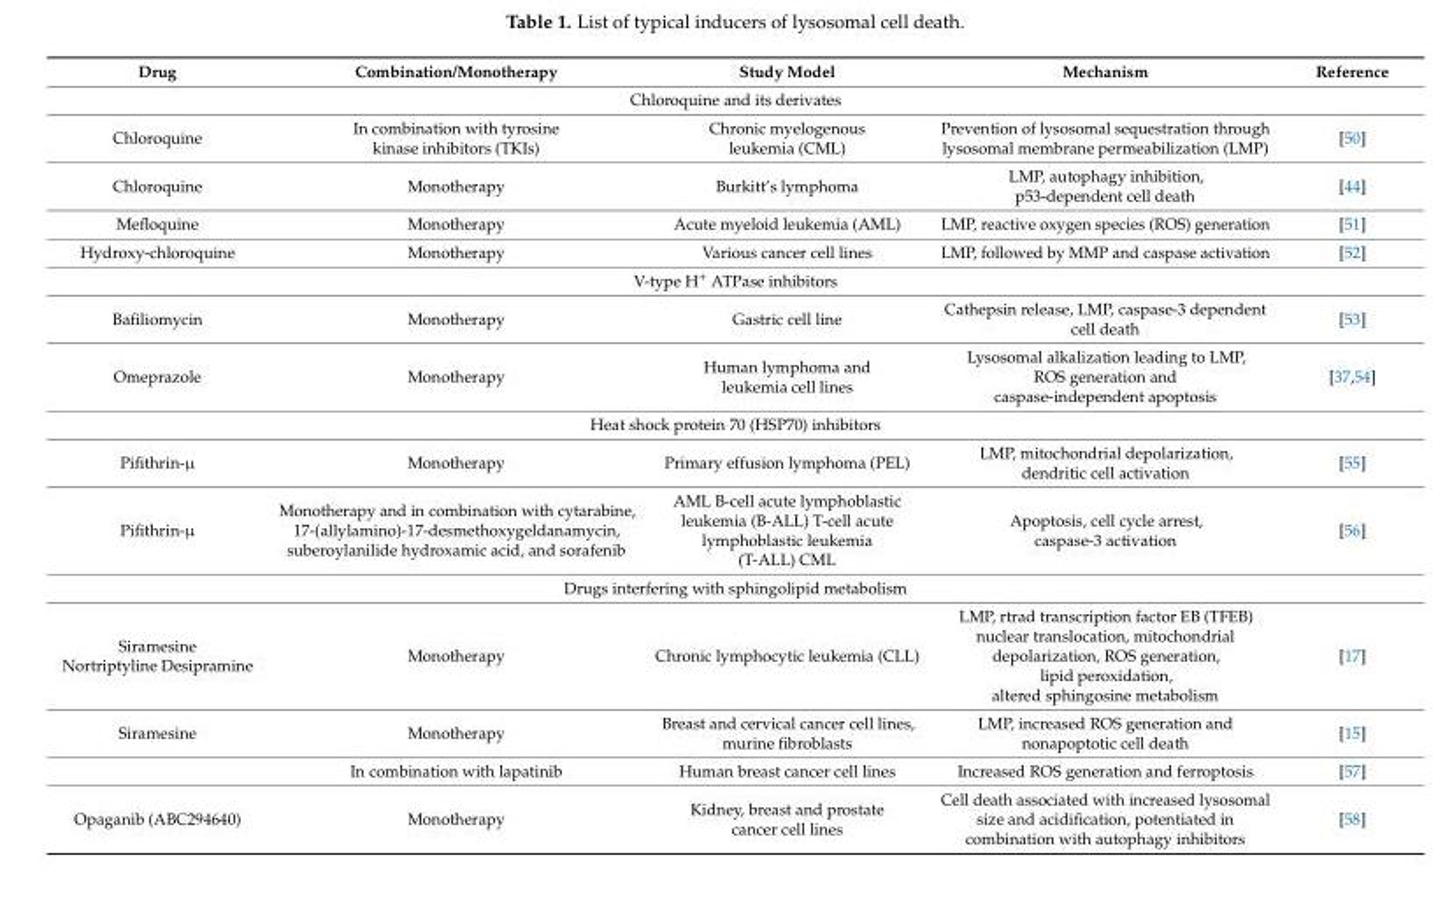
<table><thead><tr><td>Drug</td><td>Combination/Monotherapy</td><td>Study Model</td><td>Mechanism</td><td>Reference</td></tr></thead><tbody><tr><td colspan="5">Chloroquine and its derivates</td></tr><tr><td>Chloroquine</td><td>In combination with tyrosine kinase inhibitors (TKIs)</td><td>Chronic myelogenous leukemia (CML)</td><td>Prevention of lysosomal sequestration through lysosomal membrane permeabilization (LMP)</td><td>[50]</td></tr><tr><td>Chloroquine</td><td>Monotherapy</td><td>Burkitt’s lymphoma</td><td>LMP, autophagy inhibition, p53-dependent cell death</td><td>[44]</td></tr><tr><td>Mefloquine</td><td>Monotherapy</td><td>Acute myeloid leukemia (AML)</td><td>LMP, reactive oxygen species (ROS) generation</td><td>[51]</td></tr><tr><td>Hydroxy-chloroquine</td><td>Monotherapy</td><td>Various cancer cell lines</td><td>LMP, followed by MMP and caspase activation</td><td>[52]</td></tr><tr><td colspan="5">V-type H<sup>+</sup> ATPase inhibitors</td></tr><tr><td>Bafiliomycin</td><td>Monotherapy</td><td>Gastric cell line</td><td>Cathepsin release, LMP, caspase-3 dependent cell death</td><td>[53]</td></tr><tr><td>Omeprazole</td><td>Monotherapy</td><td>Human lymphoma and leukemia cell lines</td><td>Lysosomal alkalization leading to LMP, ROS generation and caspase-independent apoptosis</td><td>[37,54]</td></tr><tr><td colspan="5">Heat shock protein 70 (HSP70) inhibitors</td></tr><tr><td>Pifithrin-µ</td><td>Monotherapy</td><td>Primary effusion lymphoma (PEL)</td><td>LMP, mitochondrial depolarization, dendritic cell activation</td><td>[55]</td></tr><tr><td>Pifithrin-µ</td><td>Monotherapy and in combination with cytarabine, 17-(allylamino)-17-desmethoxygeldanamycin, suberoylanilide hydroxamic acid, and sorafenib</td><td>AML B-cell acute lymphoblastic leukemia (B-ALL) T-cell acute lymphoblastic leukemia (T-ALL) CML</td><td>Apoptosis, cell cycle arrest, caspase-3 activation</td><td>[56]</td></tr><tr><td colspan="5">Drugs interfering with sphingolipid metabolism</td></tr><tr><td>Siramesine Nortriptyline Desipramine</td><td>Monotherapy</td><td>Chronic lymphocytic leukemia (CLL)</td><td>LMP, rtrad transcription factor EB (TFEB) nuclear translocation, mitochondrial depolarization, ROS generation, lipid peroxidation, altered sphingosine metabolism</td><td>[17]</td></tr><tr><td rowspan="2">Siramesine</td><td>Monotherapy</td><td>Breast and cervical cancer cell lines, murine fibroblasts</td><td>LMP, increased ROS generation and nonapoptotic cell death</td><td>[15]</td></tr><tr><td>In combination with lapatinib</td><td>Human breast cancer cell lines</td><td>Increased ROS generation and ferroptosis</td><td>[57]</td></tr><tr><td>Opaganib (ABC294640)</td><td>Monotherapy</td><td>Kidney, breast and prostate cancer cell lines</td><td>Cell death associated with increased lysosomal size and acidification, potentiated in combination with autophagy inhibitors</td><td>[58]</td></tr></tbody></table>